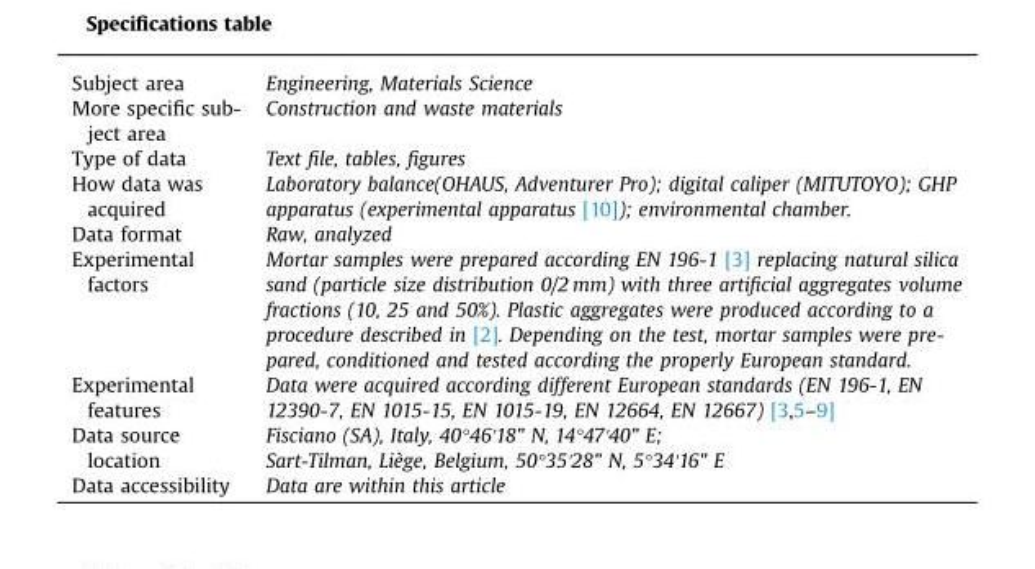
<table><tbody><tr><td>Subject area</td><td>Engineering, Materials Science</td></tr><tr><td>More specific sub- ject area</td><td>Construction and waste materials</td></tr><tr><td>Type of data</td><td>Text file, tables, figures</td></tr><tr><td>How data was acquired</td><td>Laboratory balance(OHAUS, Adventurer Pro); digital caliper (MITUTOYO); GHP apparatus (experimental apparatus [10]); environmental chamber.</td></tr><tr><td>Data format</td><td>Raw, analyzed</td></tr><tr><td>Experimental factors</td><td>Mortar samples were prepared according EN 196-1 [3] replacing natural silica sand (particle size distribution 0/2 mm) with three artificial aggregates volume fractions (10, 25 and 50%). Plastic aggregates were produced according to a procedure described in [2]. Depending on the test, mortar samples were pre- pared, conditioned and tested according the properly European standard.</td></tr><tr><td>Experimental features</td><td>Data were acquired according different European standards (EN 196-1, EN 12390-7, EN 1015-15, EN 1015-19, EN 12664, EN 12667) [3,5–9]</td></tr><tr><td rowspan="2">Data source location</td><td>Fisciano (SA), Italy, 40°46&#x27;18&quot; N, 14°47&#x27;40&quot; E;</td></tr><tr><td>Sart-Tilman, Liège, Belgium, 50°35&#x27;28&quot; N, 5°34&#x27;16&quot; E</td></tr><tr><td>Data accessibility</td><td>Data are within this article</td></tr></tbody></table>